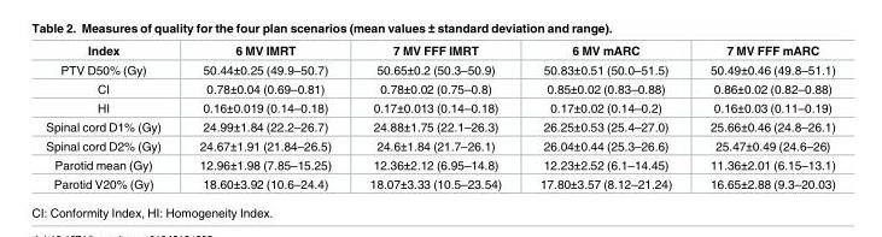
<table><thead><tr><td>Index</td><td>6 MV IMRT</td><td>7 MV FFF IMRT</td><td>6 MV mARC</td><td>7 MV FFF mARC</td></tr></thead><tbody><tr><td>PTV D50% (Gy)</td><td>50.44±0.25 (49.9–50.7)</td><td>50.65±0.2 (50.3–50.9)</td><td>50.83±0.51 (50.0–51.5)</td><td>50.49±0.46 (49.8–51.1)</td></tr><tr><td>CI</td><td>0.78±0.04 (0.69–0.81)</td><td>0.78±0.02 (0.75–0.8)</td><td>0.85±0.02 (0.83–0.88)</td><td>0.86±0.02 (0.82–0.88)</td></tr><tr><td>HI</td><td>0.16±0.019 (0.14–0.18)</td><td>0.17±0.013 (0.14–0.18)</td><td>0.17±0.02 (0.14–0.2)</td><td>0.16±0.03 (0.11–0.19)</td></tr><tr><td>Spinal cord D1% (Gy)</td><td>24.99±1.84 (22.2–26.7)</td><td>24.88±1.75 (22.1–26.3)</td><td>26.25±0.53 (25.4–27.0)</td><td>25.66±0.46 (24.8–26.1)</td></tr><tr><td>Spinal cord D2% (Gy)</td><td>24.67±1.91 (21.84–26.5)</td><td>24.6±1.84 (21.7–26.1)</td><td>26.04±0.44 (25.3–26.6)</td><td>25.47±0.49 (24.6–26)</td></tr><tr><td>Parotid mean (Gy)</td><td>12.96±1.98 (7.85–15.25)</td><td>12.36±2.12 (6.95–14.8)</td><td>12.23±2.52 (6.1–14.45)</td><td>11.36±2.01 (6.15–13.1)</td></tr><tr><td>Parotid V20% (Gy)</td><td>18.60±3.92 (10.6–24.4)</td><td>18.07±3.33 (10.5–23.54)</td><td>17.80±3.57 (8.12–21.24)</td><td>16.65±2.88 (9.3–20.03)</td></tr></tbody></table>